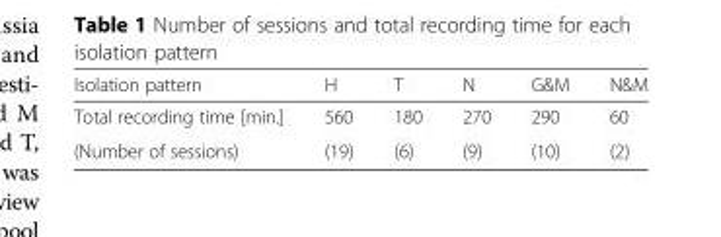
<table><thead><tr><td>Isolation pattern</td><td>H</td><td>T</td><td>N</td><td>G&amp;M</td><td>N&amp;M</td></tr></thead><tbody><tr><td>Total recording time [min.]</td><td>560</td><td>180</td><td>270</td><td>290</td><td>60</td></tr><tr><td>(Number of sessions)</td><td>(19)</td><td>(6)</td><td>(9)</td><td>(10)</td><td>(2)</td></tr></tbody></table>